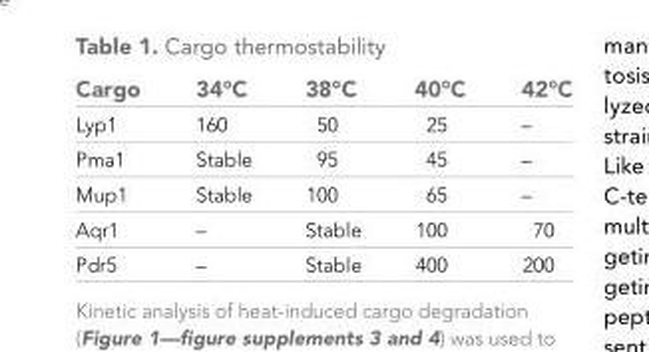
<table><thead><tr><td>Cargo</td><td>34°C</td><td>38°C</td><td>40°C</td><td>42°C</td></tr></thead><tbody><tr><td>Lyp1</td><td>160</td><td>50</td><td>25</td><td>–</td></tr><tr><td>Pma1</td><td>Stable</td><td>95</td><td>45</td><td>–</td></tr><tr><td>Mup1</td><td>Stable</td><td>100</td><td>65</td><td>–</td></tr><tr><td>Aqr1</td><td>–</td><td>Stable</td><td>100</td><td>70</td></tr><tr><td>Pdr5</td><td>–</td><td>Stable</td><td>400</td><td>200</td></tr></tbody></table>